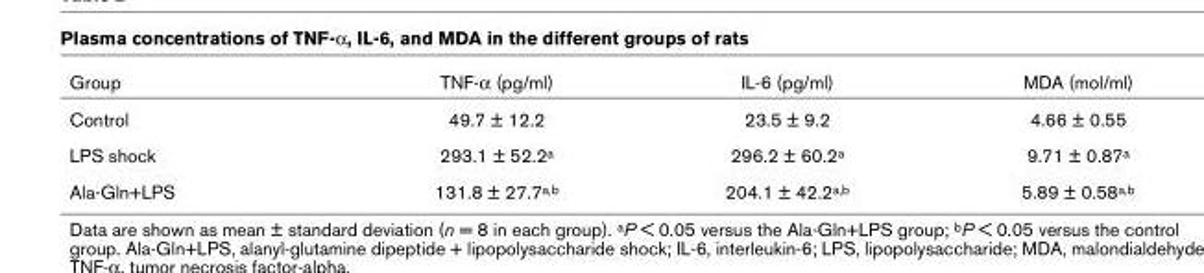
<table><thead><tr><td>Group</td><td>TNF-α (pg/ml)</td><td>IL-6 (pg/ml)</td><td>MDA (mol/ml)</td></tr></thead><tbody><tr><td>Control</td><td>49.7 ± 12.2</td><td>23.5 ± 9.2</td><td>4.66 ± 0.55</td></tr><tr><td>LPS shock</td><td>293.1 ± 52.2<sup>a</sup></td><td>296.2 ± 60.2<sup>a</sup></td><td>9.71 ± 0.87<sup>a</sup></td></tr><tr><td>Ala-Gln+LPS</td><td>131.8 ± 27.7<sup>a,b</sup></td><td>204.1 ± 42.2<sup>a,b</sup></td><td>5.89 ± 0.58<sup>a,b</sup></td></tr></tbody></table>